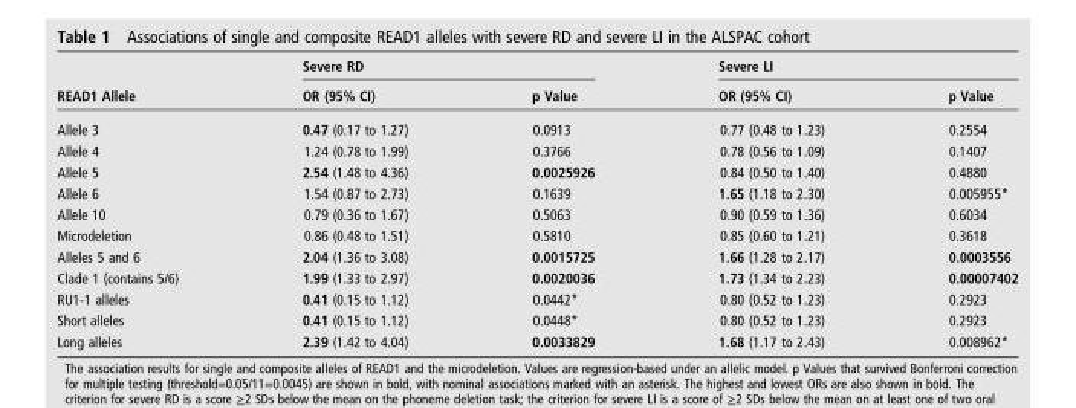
<table><thead><tr><td rowspan="2">READ1 Allele</td><td colspan="2">Severe RD</td><td colspan="2">Severe LI</td></tr><tr><td>OR (95% CI)</td><td>p Value</td><td>OR (95% CI)</td><td>p Value</td></tr></thead><tbody><tr><td>Allele 3</td><td>0.47 (0.17 to 1.27)</td><td>0.0913</td><td>0.77 (0.48 to 1.23)</td><td>0.2554</td></tr><tr><td>Allele 4</td><td>1.24 (0.78 to 1.99)</td><td>0.3766</td><td>0.78 (0.56 to 1.09)</td><td>0.1407</td></tr><tr><td>Allele 5</td><td>2.54 (1.48 to 4.36)</td><td>0.0025926</td><td>0.84 (0.50 to 1.40)</td><td>0.4880</td></tr><tr><td>Allele 6</td><td>1.54 (0.87 to 2.73)</td><td>0.1639</td><td>1.65 (1.18 to 2.30)</td><td>0.005955*</td></tr><tr><td>Allele 10</td><td>0.79 (0.36 to 1.67)</td><td>0.5063</td><td>0.90 (0.59 to 1.36)</td><td>0.6034</td></tr><tr><td>Microdeletion</td><td>0.86 (0.48 to 1.51)</td><td>0.5810</td><td>0.85 (0.60 to 1.21)</td><td>0.3618</td></tr><tr><td>Alleles 5 and 6</td><td>2.04 (1.36 to 3.08)</td><td>0.0015725</td><td>1.66 (1.28 to 2.17)</td><td>0.0003556</td></tr><tr><td>Clade 1 (contains 5/6)</td><td>1.99 (1.33 to 2.97)</td><td>0.0020036</td><td>1.73 (1.34 to 2.23)</td><td>0.00007402</td></tr><tr><td>RU1-1 alleles</td><td>0.41 (0.15 to 1.12)</td><td>0.0442*</td><td>0.80 (0.52 to 1.23)</td><td>0.2923</td></tr><tr><td>Short alleles</td><td>0.41 (0.15 to 1.12)</td><td>0.0448*</td><td>0.80 (0.52 to 1.23)</td><td>0.2923</td></tr><tr><td>Long alleles</td><td>2.39 (1.42 to 4.04)</td><td>0.0033829</td><td>1.68 (1.17 to 2.43)</td><td>0.008962*</td></tr></tbody></table>